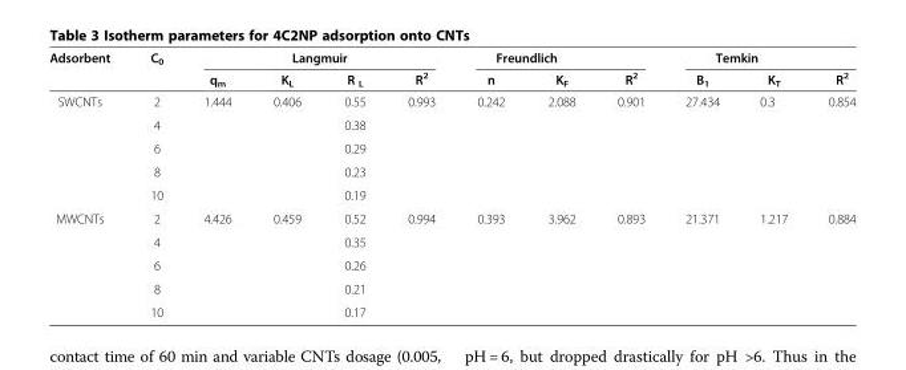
<table><thead><tr><td rowspan="2">Adsorbent</td><td rowspan="2">C<sub>0</sub></td><td colspan="3">Langmuir</td><td colspan="3">Freundlich</td><td colspan="4">Temkin</td></tr><tr><td>q<sub>m</sub></td><td>K<sub>L</sub></td><td>R <sub>L</sub></td><td>R<sup>2</sup></td><td>n</td><td>K<sub>F</sub></td><td>R<sup>2</sup></td><td>B<sub>1</sub></td><td>K<sub>T</sub></td><td>R<sup>2</sup></td></tr></thead><tbody><tr><td rowspan="5">SWCNTs</td><td>2</td><td>1.444</td><td>0.406</td><td>0.55</td><td>0.993</td><td>0.242</td><td>2.088</td><td>0.901</td><td>27.434</td><td>0.3</td><td>0.854</td></tr><tr><td>4</td><td></td><td></td><td>0.38</td><td></td><td></td><td></td><td></td><td></td><td></td><td></td></tr><tr><td>6</td><td></td><td></td><td>0.29</td><td></td><td></td><td></td><td></td><td></td><td></td><td></td></tr><tr><td>8</td><td></td><td></td><td>0.23</td><td></td><td></td><td></td><td></td><td></td><td></td><td></td></tr><tr><td>10</td><td></td><td></td><td>0.19</td><td></td><td></td><td></td><td></td><td></td><td></td><td></td></tr><tr><td rowspan="5">MWCNTs</td><td>2</td><td>4.426</td><td>0.459</td><td>0.52</td><td>0.994</td><td>0.393</td><td>3.962</td><td>0.893</td><td>21.371</td><td>1.217</td><td>0.884</td></tr><tr><td>4</td><td></td><td></td><td>0.35</td><td></td><td></td><td></td><td></td><td></td><td></td><td></td></tr><tr><td>6</td><td></td><td></td><td>0.26</td><td></td><td></td><td></td><td></td><td></td><td></td><td></td></tr><tr><td>8</td><td></td><td></td><td>0.21</td><td></td><td></td><td></td><td></td><td></td><td></td><td></td></tr><tr><td>10</td><td></td><td></td><td>0.17</td><td></td><td></td><td></td><td></td><td></td><td></td><td></td></tr></tbody></table>